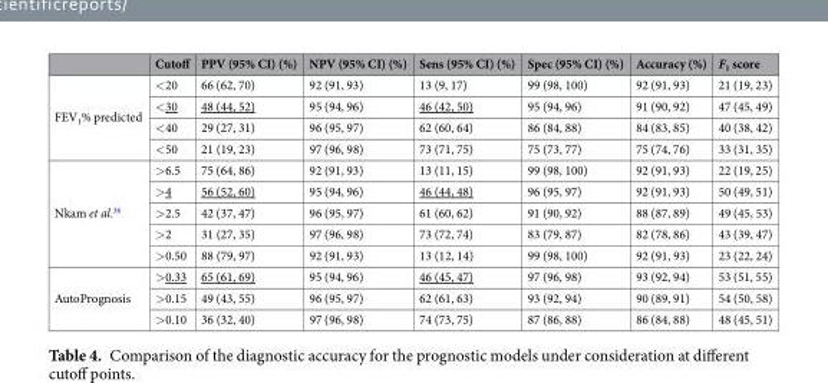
<table><thead><tr><td></td><td>Cutoff</td><td>PPV (95% CI) (%)</td><td>NPV (95% CI) (%)</td><td>Sens (95% CI) (%)</td><td>Spec (95% CI) (%)</td><td>Accuracy (%)</td><td>F<sub>1</sub> score</td></tr></thead><tbody><tr><td rowspan="4">FEV<sub>1</sub>% predicted</td><td>&lt;20</td><td>66 (62, 70)</td><td>92 (91, 93)</td><td>13 (9, 17)</td><td>99 (98, 100)</td><td>92 (91, 93)</td><td>21 (19, 23)</td></tr><tr><td>&lt;30</td><td>48 (44, 52)</td><td>95 (94, 96)</td><td>46 (42, 50)</td><td>95 (94, 96)</td><td>91 (90, 92)</td><td>47 (45, 49)</td></tr><tr><td>&lt;40</td><td>29 (27, 31)</td><td>96 (95, 97)</td><td>62 (60, 64)</td><td>86 (84, 88)</td><td>84 (83, 85)</td><td>40 (38, 42)</td></tr><tr><td>&lt;50</td><td>21 (19, 23)</td><td>97 (96, 98)</td><td>73 (71, 75)</td><td>75 (73, 77)</td><td>75 (74, 76)</td><td>33 (31, 35)</td></tr><tr><td rowspan="5">Nkam et al.<sup>36</sup></td><td>&gt;6.5</td><td>75 (64, 86)</td><td>92 (91, 93)</td><td>13 (11, 15)</td><td>99 (98, 100)</td><td>92 (91, 93)</td><td>22 (19, 25)</td></tr><tr><td>&gt;4</td><td>56 (52, 60)</td><td>95 (94, 96)</td><td>46 (44, 48)</td><td>96 (95, 97)</td><td>92 (91, 93)</td><td>50 (49, 51)</td></tr><tr><td>&gt;2.5</td><td>42 (37, 47)</td><td>96 (95, 97)</td><td>61 (60, 62)</td><td>91 (90, 92)</td><td>88 (87, 89)</td><td>49 (45, 53)</td></tr><tr><td>&gt;2</td><td>31 (27, 35)</td><td>97 (96, 98)</td><td>73 (72, 74)</td><td>83 (79, 87)</td><td>82 (78, 86)</td><td>43 (39, 47)</td></tr><tr><td>&gt;0.50</td><td>88 (79, 97)</td><td>92 (91, 93)</td><td>13 (12, 14)</td><td>99 (98, 100)</td><td>92 (91, 93)</td><td>23 (22, 24)</td></tr><tr><td rowspan="3">AutoPrognosis</td><td>&gt;0.33</td><td>65 (61, 69)</td><td>95 (94, 96)</td><td>46 (45, 47)</td><td>97 (96, 98)</td><td>93 (92, 94)</td><td>53 (51, 55)</td></tr><tr><td>&gt;0.15</td><td>49 (43, 55)</td><td>96 (95, 97)</td><td>62 (61, 63)</td><td>93 (92, 94)</td><td>90 (89, 91)</td><td>54 (50, 58)</td></tr><tr><td>&gt;0.10</td><td>36 (32, 40)</td><td>97 (96, 98)</td><td>74 (73, 75)</td><td>87 (86, 88)</td><td>86 (84, 88)</td><td>48 (45, 51)</td></tr></tbody></table>